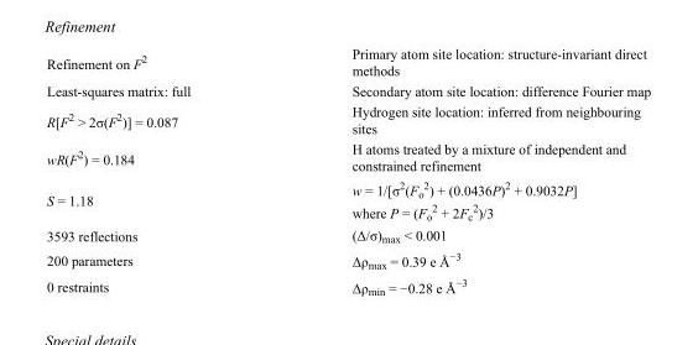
<table><tbody><tr><td>Refinement on F<sup>2</sup></td><td>Primary atom site location: structure-invariant direct methods</td></tr><tr><td>Least-squares matrix: full</td><td>Secondary atom site location: difference Fourier map</td></tr><tr><td>R[F<sup>2</sup> &gt; 2σ(F<sup>2</sup>)] = 0.087</td><td>Hydrogen site location: inferred from neighbouring sites</td></tr><tr><td>wR(F<sup>2</sup>) = 0.184</td><td>H atoms treated by a mixture of independent and constrained refinement</td></tr><tr><td>S = 1.18</td><td>w = 1/[σ<sup>2</sup>(F<sub>o</sub> <sup>2</sup>) + (0.0436P)<sup>2</sup> + 0.9032P] where P = (F<sub>o</sub> <sup>2</sup> + 2F<sub>c</sub> <sup>2</sup>)/3</td></tr><tr><td>3593 reflections</td><td>(Δ/σ)<sub>max</sub> &lt; 0.001</td></tr><tr><td>200 parameters</td><td>Δρ<sub>max</sub> = 0.39 e Å<sup>−3</sup></td></tr><tr><td>0 restraints</td><td>Δρ<sub>min</sub> = −0.28 e Å<sup>−3</sup></td></tr></tbody></table>